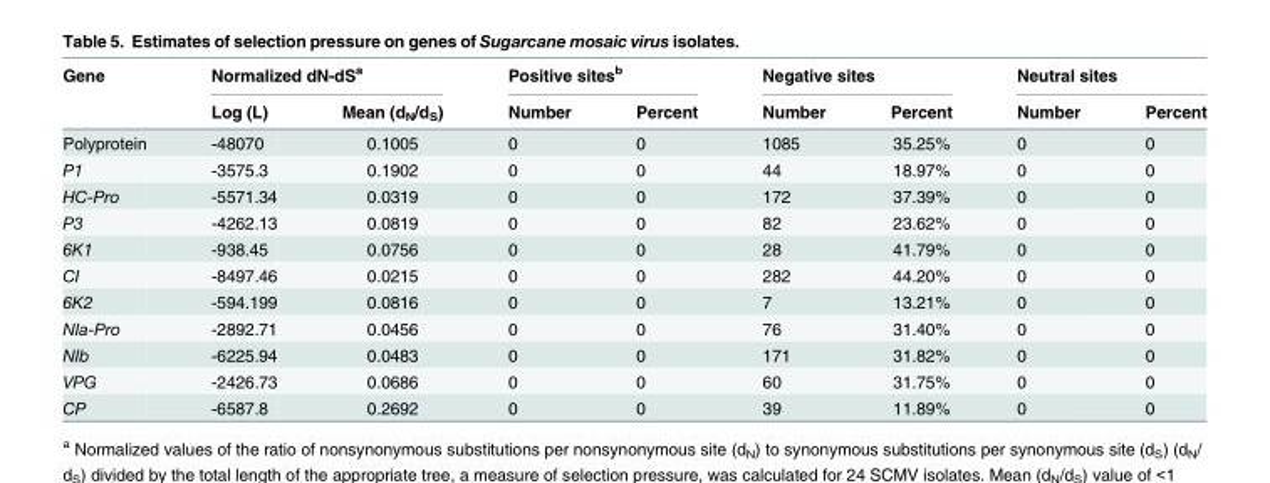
<table><thead><tr><td rowspan="2">Gene</td><td colspan="2">Normalized dN-dS<sup>a</sup></td><td colspan="2">Positive sites<sup>b</sup></td><td colspan="2">Negative sites</td><td colspan="2">Neutral sites</td></tr><tr><td>Log (L)</td><td>Mean (d<sub>N</sub>/d<sub>S</sub>)</td><td>Number</td><td>Percent</td><td>Number</td><td>Percent</td><td>Number</td><td>Percent</td></tr></thead><tbody><tr><td>Polyprotein</td><td>-48070</td><td>0.1005</td><td>0</td><td>0</td><td>1085</td><td>35.25%</td><td>0</td><td>0</td></tr><tr><td>P1</td><td>-3575.3</td><td>0.1902</td><td>0</td><td>0</td><td>44</td><td>18.97%</td><td>0</td><td>0</td></tr><tr><td>HC-Pro</td><td>-5571.34</td><td>0.0319</td><td>0</td><td>0</td><td>172</td><td>37.39%</td><td>0</td><td>0</td></tr><tr><td>P3</td><td>-4262.13</td><td>0.0819</td><td>0</td><td>0</td><td>82</td><td>23.62%</td><td>0</td><td>0</td></tr><tr><td>6K1</td><td>-938.45</td><td>0.0756</td><td>0</td><td>0</td><td>28</td><td>41.79%</td><td>0</td><td>0</td></tr><tr><td>CI</td><td>-8497.46</td><td>0.0215</td><td>0</td><td>0</td><td>282</td><td>44.20%</td><td>0</td><td>0</td></tr><tr><td>6K2</td><td>-594.199</td><td>0.0816</td><td>0</td><td>0</td><td>7</td><td>13.21%</td><td>0</td><td>0</td></tr><tr><td>NIa-Pro</td><td>-2892.71</td><td>0.0456</td><td>0</td><td>0</td><td>76</td><td>31.40%</td><td>0</td><td>0</td></tr><tr><td>NIb</td><td>-6225.94</td><td>0.0483</td><td>0</td><td>0</td><td>171</td><td>31.82%</td><td>0</td><td>0</td></tr><tr><td>VPG</td><td>-2426.73</td><td>0.0686</td><td>0</td><td>0</td><td>60</td><td>31.75%</td><td>0</td><td>0</td></tr><tr><td>CP</td><td>-6587.8</td><td>0.2692</td><td>0</td><td>0</td><td>39</td><td>11.89%</td><td>0</td><td>0</td></tr></tbody></table>